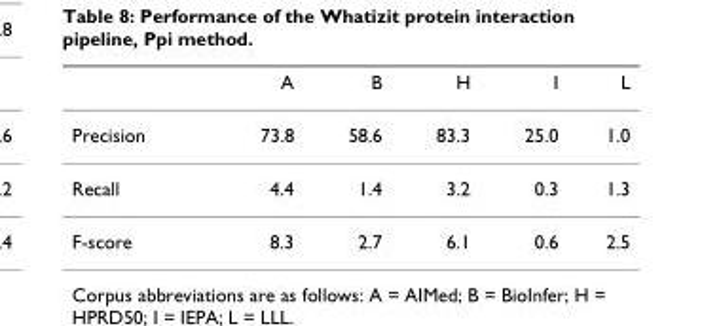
<table><thead><tr><td></td><td>A</td><td>B</td><td>H</td><td>I</td><td>L</td></tr></thead><tbody><tr><td>Precision</td><td>73.8</td><td>58.6</td><td>83.3</td><td>25.0</td><td>1.0</td></tr><tr><td>Recall</td><td>4.4</td><td>1.4</td><td>3.2</td><td>0.3</td><td>1.3</td></tr><tr><td>F-score</td><td>8.3</td><td>2.7</td><td>6.1</td><td>0.6</td><td>2.5</td></tr></tbody></table>